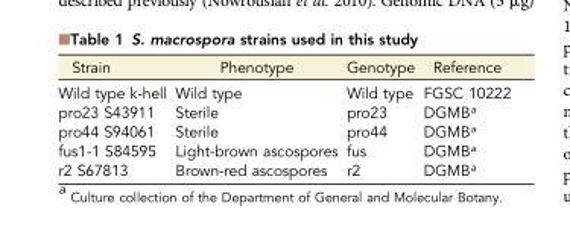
<table><thead><tr><td>Strain</td><td>Phenotype</td><td>Genotype</td><td>Reference</td></tr></thead><tbody><tr><td>Wild type k-hell</td><td>Wild type</td><td>Wild type</td><td>FGSC 10222</td></tr><tr><td>pro23 S43911</td><td>Sterile</td><td>pro23</td><td>DGMB<sup>a</sup></td></tr><tr><td>pro44 S94061</td><td>Sterile</td><td>pro44</td><td>DGMB<sup>a</sup></td></tr><tr><td>fus1-1 S84595</td><td>Light-brown ascospores</td><td>fus</td><td>DGMB<sup>a</sup></td></tr><tr><td>r2 S67813</td><td>Brown-red ascospores</td><td>r2</td><td>DGMB<sup>a</sup></td></tr></tbody></table>